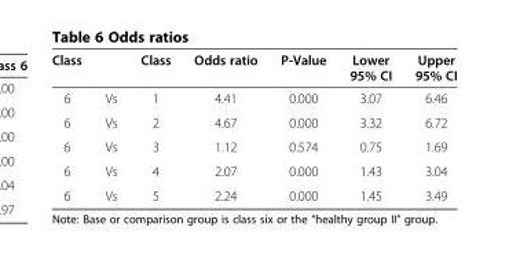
<table><thead><tr><td>Class</td><td></td><td>Class</td><td>Odds ratio</td><td>P-Value</td><td>Lower 95% CI</td><td>Upper 95% CI</td></tr></thead><tbody><tr><td>6</td><td>Vs</td><td>1</td><td>4.41</td><td>0.000</td><td>3.07</td><td>6.46</td></tr><tr><td>6</td><td>Vs</td><td>2</td><td>4.67</td><td>0.000</td><td>3.32</td><td>6.72</td></tr><tr><td>6</td><td>Vs</td><td>3</td><td>1.12</td><td>0.574</td><td>0.75</td><td>1.69</td></tr><tr><td>6</td><td>Vs</td><td>4</td><td>2.07</td><td>0.000</td><td>1.43</td><td>3.04</td></tr><tr><td>6</td><td>Vs</td><td>5</td><td>2.24</td><td>0.000</td><td>1.45</td><td>3.49</td></tr></tbody></table>